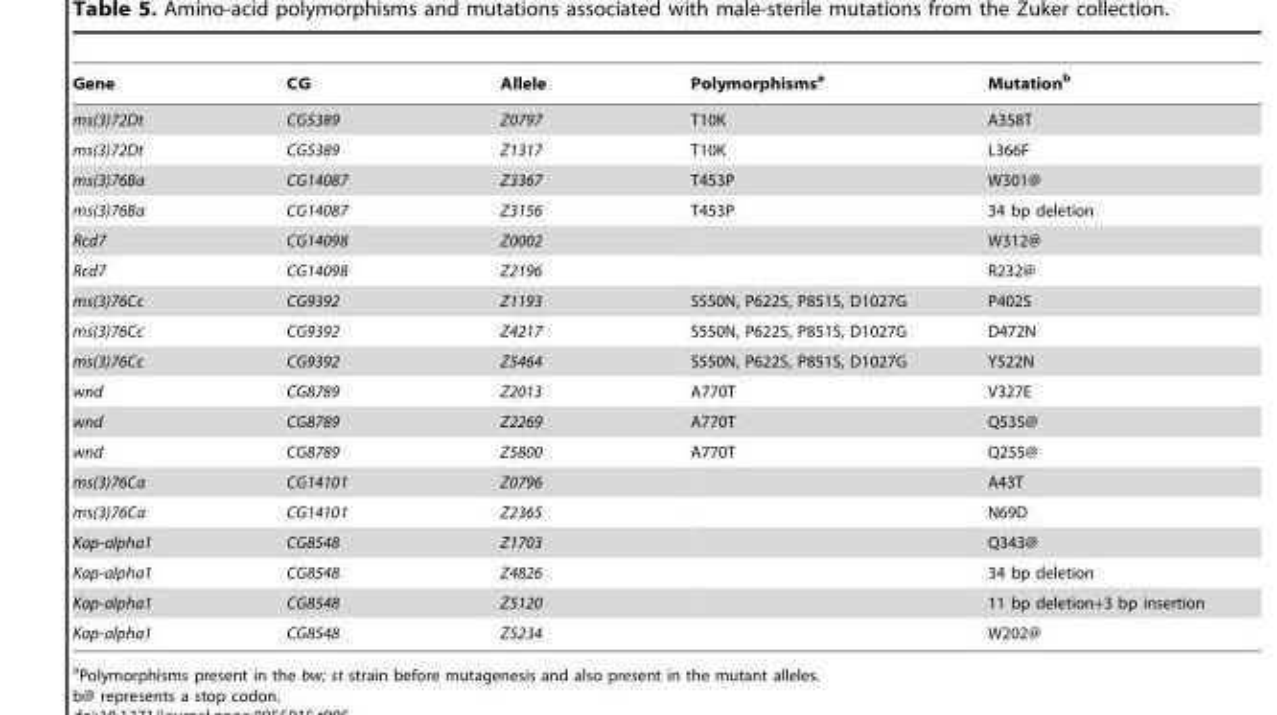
<table><thead><tr><td>Gene</td><td>CG</td><td>Allele</td><td>Polymorphisms<sup>a</sup></td><td>Mutation<sup>b</sup></td></tr></thead><tbody><tr><td>ms(3)72Dt</td><td>CG5389</td><td>Z0797</td><td>T10K</td><td>A358T</td></tr><tr><td>ms(3)72Dt</td><td>CG5389</td><td>Z1317</td><td>T10K</td><td>L366F</td></tr><tr><td>ms(3)76Ba</td><td>CG14087</td><td>Z3367</td><td>T453P</td><td>W301@</td></tr><tr><td>ms(3)76Ba</td><td>CG14087</td><td>Z3156</td><td>T453P</td><td>34 bp deletion</td></tr><tr><td>Rcd7</td><td>CG14098</td><td>Z0002</td><td></td><td>W312@</td></tr><tr><td>Rcd7</td><td>CG14098</td><td>Z2196</td><td></td><td>R232@</td></tr><tr><td>ms(3)76Cc</td><td>CG9392</td><td>Z1193</td><td>S550N, P622S, P851S, D1027G</td><td>P402S</td></tr><tr><td>ms(3)76Cc</td><td>CG9392</td><td>Z4217</td><td>S550N, P622S, P851S, D1027G</td><td>D472N</td></tr><tr><td>ms(3)76Cc</td><td>CG9392</td><td>Z5464</td><td>S550N, P622S, P851S, D1027G</td><td>Y522N</td></tr><tr><td>wnd</td><td>CG8789</td><td>Z2013</td><td>A770T</td><td>V327E</td></tr><tr><td>wnd</td><td>CG8789</td><td>Z2269</td><td>A770T</td><td>Q535@</td></tr><tr><td>wnd</td><td>CG8789</td><td>Z5800</td><td>A770T</td><td>Q255@</td></tr><tr><td>ms(3)76Ca</td><td>CG14101</td><td>Z0796</td><td></td><td>A43T</td></tr><tr><td>ms(3)76Ca</td><td>CG14101</td><td>Z2365</td><td></td><td>N69D</td></tr><tr><td>Kap-alpha1</td><td>CG8548</td><td>Z1703</td><td></td><td>Q343@</td></tr><tr><td>Kap-alpha1</td><td>CG8548</td><td>Z4826</td><td></td><td>34 bp deletion</td></tr><tr><td>Kap-alpha1</td><td>CG8548</td><td>Z5120</td><td></td><td>11 bp deletion+3 bp insertion</td></tr><tr><td>Kap-alpha1</td><td>CG8548</td><td>Z5234</td><td></td><td>W202@</td></tr></tbody></table>